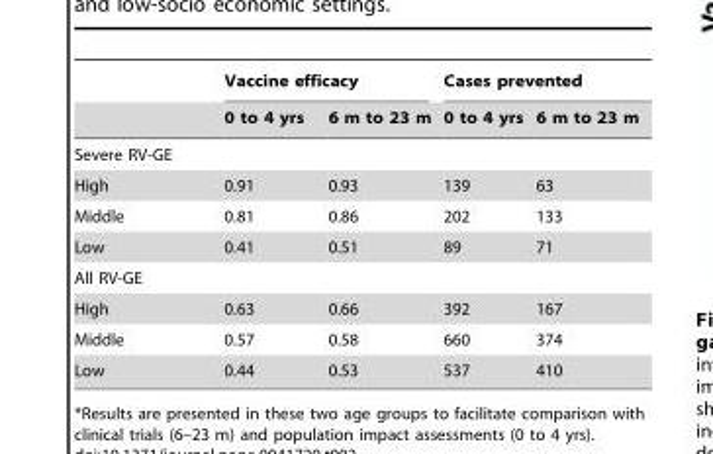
<table><thead><tr><td rowspan="2"></td><td colspan="2">Vaccine efficacy</td><td colspan="2">Cases prevented</td></tr><tr><td>0 to 4 yrs</td><td>6 m to 23 m</td><td>0 to 4 yrs</td><td>6 m to 23 m</td></tr></thead><tbody><tr><td colspan="5">Severe RV-GE</td></tr><tr><td>High</td><td>0.91</td><td>0.93</td><td>139</td><td>63</td></tr><tr><td>Middle</td><td>0.81</td><td>0.86</td><td>202</td><td>133</td></tr><tr><td>Low</td><td>0.41</td><td>0.51</td><td>89</td><td>71</td></tr><tr><td colspan="5">All RV-GE</td></tr><tr><td>High</td><td>0.63</td><td>0.66</td><td>392</td><td>167</td></tr><tr><td>Middle</td><td>0.57</td><td>0.58</td><td>660</td><td>374</td></tr><tr><td>Low</td><td>0.44</td><td>0.53</td><td>537</td><td>410</td></tr></tbody></table>